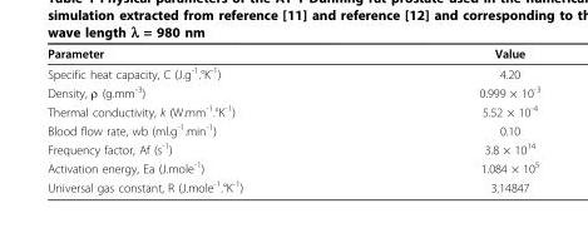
<table><thead><tr><td>Parameter</td><td>Value</td></tr></thead><tbody><tr><td>Specific heat capacity, C (J.g<sup>-1</sup>.°K<sup>-1</sup>)</td><td>4.20</td></tr><tr><td>Density, ρ (g.mm<sup>-3</sup>)</td><td>0.999 × 10<sup>-3</sup></td></tr><tr><td>Thermal conductivity, k (W.mm<sup>-1</sup>.°K<sup>-1</sup>)</td><td>5.52 × 10<sup>-4</sup></td></tr><tr><td>Blood flow rate, wb (ml.g<sup>-1</sup>.min<sup>-1</sup>)</td><td>0.10</td></tr><tr><td>Frequency factor, Af (s<sup>-1</sup>)</td><td>3.8 × 10<sup>14</sup></td></tr><tr><td>Activation energy, Ea (J.mole<sup>-1</sup>)</td><td>1.084 × 10<sup>5</sup></td></tr><tr><td>Universal gas constant, R (J.mole<sup>-1</sup>.°K<sup>-1</sup>)</td><td>3.14847</td></tr></tbody></table>